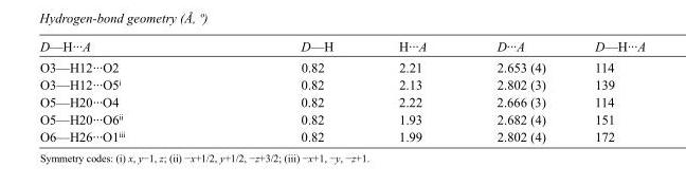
<table><tbody><tr><td>D—H···A</td><td>D—H</td><td>H···A</td><td>D···A</td><td>D—H···A</td></tr><tr><td>O3—H12···O2</td><td>0.82</td><td>2.21</td><td>2.653 (4)</td><td>114</td></tr><tr><td>O3—H12···O5<sup>i</sup></td><td>0.82</td><td>2.13</td><td>2.802 (3)</td><td>139</td></tr><tr><td>O5—H20···O4</td><td>0.82</td><td>2.22</td><td>2.666 (3)</td><td>114</td></tr><tr><td>O5—H20···O6<sup>ii</sup></td><td>0.82</td><td>1.93</td><td>2.682 (4)</td><td>151</td></tr><tr><td>O6—H26···O1<sup>iii</sup></td><td>0.82</td><td>1.99</td><td>2.802 (4)</td><td>172</td></tr></tbody></table>